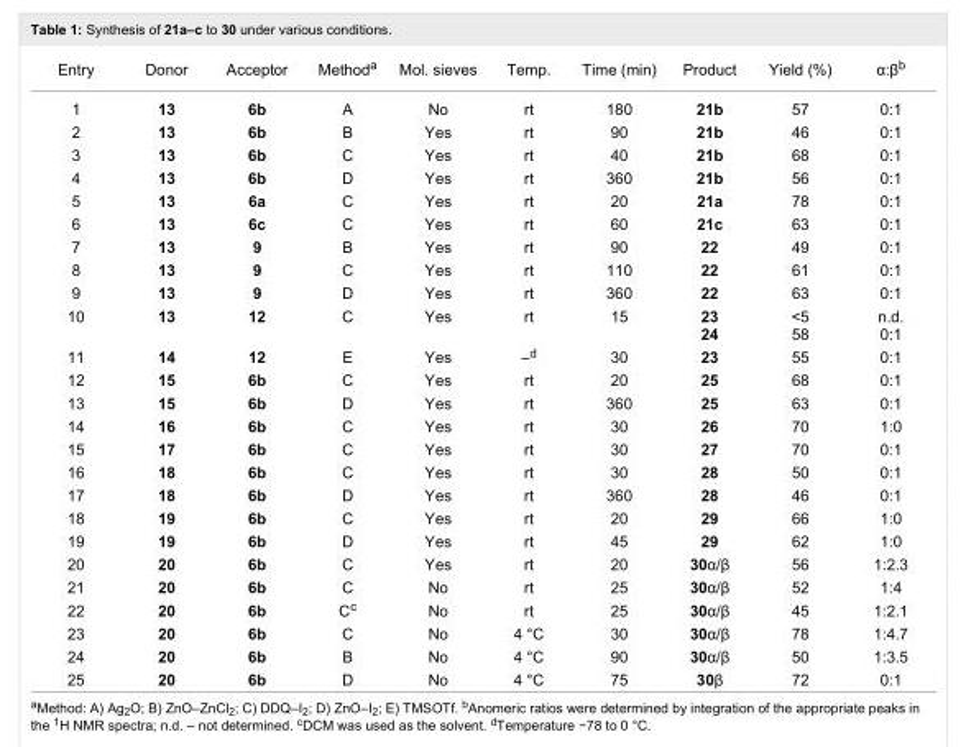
<table><tbody><tr><td>Entry</td><td>Donor</td><td>Acceptor</td><td>Method<sup>a</sup></td><td>Mol. sieves</td><td>Temp.</td><td>Time (min)</td><td>Product</td><td>Yield (%)</td><td>α:β<sup>b</sup></td></tr><tr><td>1</td><td>13</td><td>6b</td><td>A</td><td>No</td><td>rt</td><td>180</td><td>21b</td><td>57</td><td>0:1</td></tr><tr><td>2</td><td>13</td><td>6b</td><td>B</td><td>Yes</td><td>rt</td><td>90</td><td>21b</td><td>46</td><td>0:1</td></tr><tr><td>3</td><td>13</td><td>6b</td><td>C</td><td>Yes</td><td>rt</td><td>40</td><td>21b</td><td>68</td><td>0:1</td></tr><tr><td>4</td><td>13</td><td>6b</td><td>D</td><td>Yes</td><td>rt</td><td>360</td><td>21b</td><td>56</td><td>0:1</td></tr><tr><td>5</td><td>13</td><td>6a</td><td>C</td><td>Yes</td><td>rt</td><td>20</td><td>21a</td><td>78</td><td>0:1</td></tr><tr><td>6</td><td>13</td><td>6c</td><td>C</td><td>Yes</td><td>rt</td><td>60</td><td>21c</td><td>63</td><td>0:1</td></tr><tr><td>7</td><td>13</td><td>9</td><td>B</td><td>Yes</td><td>rt</td><td>90</td><td>22</td><td>49</td><td>0:1</td></tr><tr><td>8</td><td>13</td><td>9</td><td>C</td><td>Yes</td><td>rt</td><td>110</td><td>22</td><td>61</td><td>0:1</td></tr><tr><td>9</td><td>13</td><td>9</td><td>D</td><td>Yes</td><td>rt</td><td>360</td><td>22</td><td>63</td><td>0:1</td></tr><tr><td>10</td><td>13</td><td>12</td><td>C</td><td>Yes</td><td>rt</td><td>15</td><td>23 24</td><td>&lt;5 58</td><td>n.d. 0:1</td></tr><tr><td>11</td><td>14</td><td>12</td><td>E</td><td>Yes</td><td>–<sup>d</sup></td><td>30</td><td>23</td><td>55</td><td>0:1</td></tr><tr><td>12</td><td>15</td><td>6b</td><td>C</td><td>Yes</td><td>rt</td><td>20</td><td>25</td><td>68</td><td>0:1</td></tr><tr><td>13</td><td>15</td><td>6b</td><td>D</td><td>Yes</td><td>rt</td><td>360</td><td>25</td><td>63</td><td>0:1</td></tr><tr><td>14</td><td>16</td><td>6b</td><td>C</td><td>Yes</td><td>rt</td><td>30</td><td>26</td><td>70</td><td>1:0</td></tr><tr><td>15</td><td>17</td><td>6b</td><td>C</td><td>Yes</td><td>rt</td><td>30</td><td>27</td><td>70</td><td>0:1</td></tr><tr><td>16</td><td>18</td><td>6b</td><td>C</td><td>Yes</td><td>rt</td><td>30</td><td>28</td><td>50</td><td>0:1</td></tr><tr><td>17</td><td>18</td><td>6b</td><td>D</td><td>Yes</td><td>rt</td><td>360</td><td>28</td><td>46</td><td>0:1</td></tr><tr><td>18</td><td>19</td><td>6b</td><td>C</td><td>Yes</td><td>rt</td><td>20</td><td>29</td><td>66</td><td>1:0</td></tr><tr><td>19</td><td>19</td><td>6b</td><td>D</td><td>Yes</td><td>rt</td><td>45</td><td>29</td><td>62</td><td>1:0</td></tr><tr><td>20</td><td>20</td><td>6b</td><td>C</td><td>Yes</td><td>rt</td><td>20</td><td>30α/β</td><td>56</td><td>1:2.3</td></tr><tr><td>21</td><td>20</td><td>6b</td><td>C</td><td>No</td><td>rt</td><td>25</td><td>30α/β</td><td>52</td><td>1:4</td></tr><tr><td>22</td><td>20</td><td>6b</td><td>C<sup>c</sup></td><td>No</td><td>rt</td><td>25</td><td>30α/β</td><td>45</td><td>1:2.1</td></tr><tr><td>23</td><td>20</td><td>6b</td><td>C</td><td>No</td><td>4 °C</td><td>30</td><td>30α/β</td><td>78</td><td>1:4.7</td></tr><tr><td>24</td><td>20</td><td>6b</td><td>B</td><td>No</td><td>4 °C</td><td>90</td><td>30α/β</td><td>50</td><td>1:3.5</td></tr><tr><td>25</td><td>20</td><td>6b</td><td>D</td><td>No</td><td>4 °C</td><td>75</td><td>30β</td><td>72</td><td>0:1</td></tr></tbody></table>